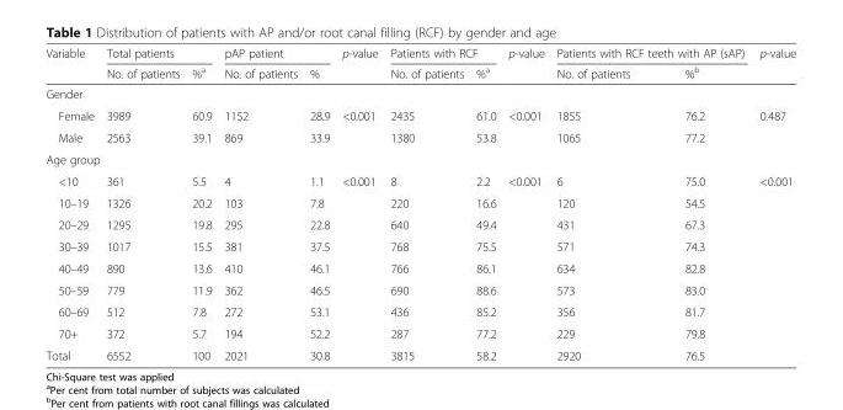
<table><thead><tr><td rowspan="2">Variable</td><td colspan="2">Total patients</td><td colspan="2">pAP patient</td><td rowspan="2">p-value</td><td colspan="2">Patients with RCF</td><td rowspan="2">p-value</td><td colspan="2">Patients with RCF teeth with AP (sAP)</td><td rowspan="2">p-value</td></tr><tr><td>No. of patients</td><td>%<sup>a</sup></td><td>No. of patients</td><td>%</td><td>No. of patients</td><td>%<sup>a</sup></td><td>No. of patients</td><td>%<sup>b</sup></td></tr></thead><tbody><tr><td colspan="12">Gender</td></tr><tr><td>Female</td><td>3989</td><td>60.9</td><td>1152</td><td>28.9</td><td rowspan="2">&lt;0.001</td><td>2435</td><td>61.0</td><td rowspan="2">&lt;0.001</td><td>1855</td><td>76.2</td><td rowspan="2">0.487</td></tr><tr><td>Male</td><td>2563</td><td>39.1</td><td>869</td><td>33.9</td><td>1380</td><td>53.8</td><td>1065</td><td>77.2</td></tr><tr><td colspan="12">Age group</td></tr><tr><td>&lt;10</td><td>361</td><td>5.5</td><td>4</td><td>1.1</td><td rowspan="8">&lt;0.001</td><td>8</td><td>2.2</td><td rowspan="8">&lt;0.001</td><td>6</td><td>75.0</td><td rowspan="8">&lt;0.001</td></tr><tr><td>10–19</td><td>1326</td><td>20.2</td><td>103</td><td>7.8</td><td>220</td><td>16.6</td><td>120</td><td>54.5</td></tr><tr><td>20–29</td><td>1295</td><td>19.8</td><td>295</td><td>22.8</td><td>640</td><td>49.4</td><td>431</td><td>67.3</td></tr><tr><td>30–39</td><td>1017</td><td>15.5</td><td>381</td><td>37.5</td><td>768</td><td>75.5</td><td>571</td><td>74.3</td></tr><tr><td>40–49</td><td>890</td><td>13.6</td><td>410</td><td>46.1</td><td>766</td><td>86.1</td><td>634</td><td>82.8</td></tr><tr><td>50–59</td><td>779</td><td>11.9</td><td>362</td><td>46.5</td><td>690</td><td>88.6</td><td>573</td><td>83.0</td></tr><tr><td>60–69</td><td>512</td><td>7.8</td><td>272</td><td>53.1</td><td>436</td><td>85.2</td><td>356</td><td>81.7</td></tr><tr><td>70+</td><td>372</td><td>5.7</td><td>194</td><td>52.2</td><td>287</td><td>77.2</td><td>229</td><td>79.8</td></tr><tr><td>Total</td><td>6552</td><td>100</td><td>2021</td><td>30.8</td><td></td><td>3815</td><td>58.2</td><td></td><td>2920</td><td>76.5</td><td></td></tr></tbody></table>